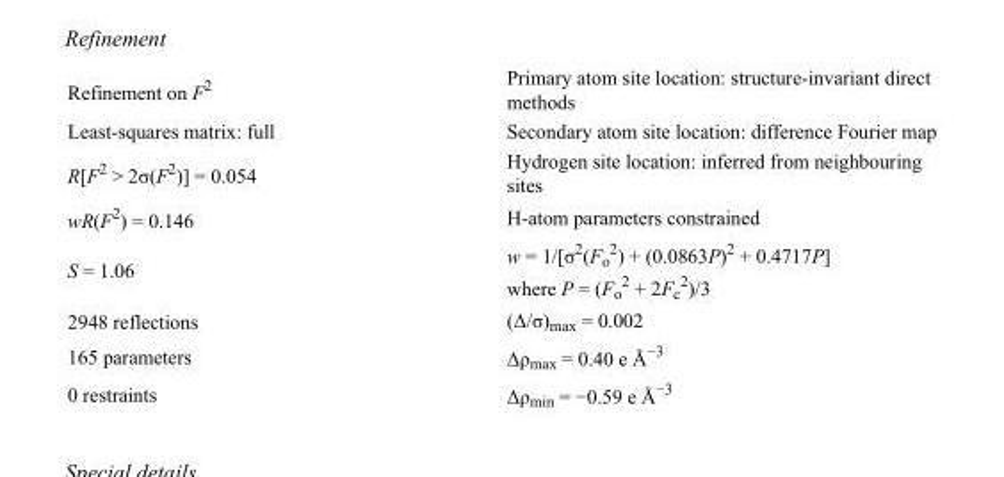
<table><tbody><tr><td>Refinement on F<sup>2</sup></td><td>Primary atom site location: structure-invariant direct methods</td></tr><tr><td>Least-squares matrix: full</td><td>Secondary atom site location: difference Fourier map</td></tr><tr><td>R[F<sup>2</sup> &gt; 2σ(F<sup>2</sup>)] = 0.054</td><td>Hydrogen site location: inferred from neighbouring sites</td></tr><tr><td>wR(F<sup>2</sup>) = 0.146</td><td>H-atom parameters constrained</td></tr><tr><td>S = 1.06</td><td>w = 1/[σ<sup>2</sup>(F<sub>o</sub> <sup>2</sup>) + (0.0863P)<sup>2</sup> + 0.4717P] where P = (F<sub>o</sub> <sup>2</sup> + 2F<sub>c</sub> <sup>2</sup>)/3</td></tr><tr><td>2948 reflections</td><td>(Δ/σ)<sub>max</sub> = 0.002</td></tr><tr><td>165 parameters</td><td>Δρ<sub>max</sub> = 0.40 e Å<sup>−3</sup></td></tr><tr><td>0 restraints</td><td>Δρ<sub>min</sub> = −0.59 e Å<sup>−3</sup></td></tr></tbody></table>